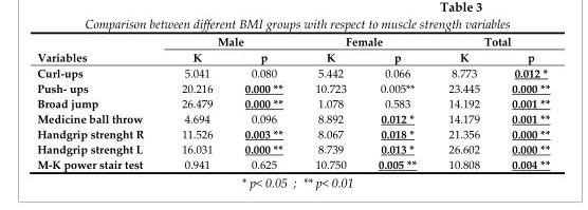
<table><thead><tr><td rowspan="2">Variables</td><td colspan="2">Male</td><td colspan="2">Female</td><td colspan="2">Total</td></tr><tr><td>K</td><td>p</td><td>K</td><td>p</td><td>K</td><td>p</td></tr></thead><tbody><tr><td>Curl-ups</td><td>5.041</td><td>0.080</td><td>5.442</td><td>0.066</td><td>8.773</td><td>0.012 *</td></tr><tr><td>Push- ups</td><td>20.216</td><td>0.000 **</td><td>10.723</td><td>0.005**</td><td>23.445</td><td>0.000 **</td></tr><tr><td>Broad jump</td><td>26.479</td><td>0.000 **</td><td>1.078</td><td>0.583</td><td>14.192</td><td>0.001 **</td></tr><tr><td>Medicine ball throw</td><td>4.694</td><td>0.096</td><td>8.892</td><td>0.012 *</td><td>14.179</td><td>0.001 **</td></tr><tr><td>Handgrip strenght R</td><td>11.526</td><td>0.003 **</td><td>8.067</td><td>0.018 *</td><td>21.356</td><td>0.000 **</td></tr><tr><td>Handgrip strenght L</td><td>16.031</td><td>0.000 **</td><td>8.739</td><td>0.013 *</td><td>26.602</td><td>0.000 **</td></tr><tr><td>M-K power stair test</td><td>0.941</td><td>0.625</td><td>10.750</td><td>0.005 **</td><td>10.808</td><td>0.004 **</td></tr></tbody></table>